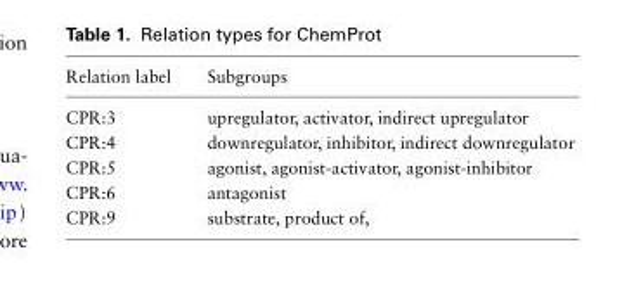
<table><thead><tr><td>Relation label</td><td>Subgroups</td></tr></thead><tbody><tr><td>CPR:3</td><td>upregulator, activator, indirect upregulator</td></tr><tr><td>CPR:4</td><td>downregulator, inhibitor, indirect downregulator</td></tr><tr><td>CPR:5</td><td>agonist, agonist-activator, agonist-inhibitor</td></tr><tr><td>CPR:6</td><td>antagonist</td></tr><tr><td>CPR:9</td><td>substrate, product of,</td></tr></tbody></table>